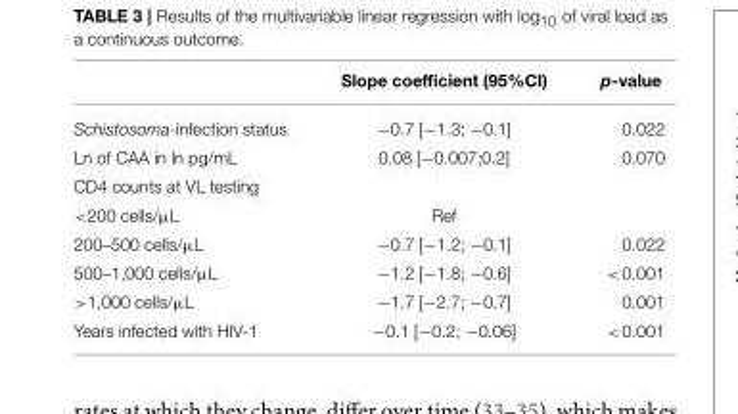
<table><thead><tr><td></td><td>Slope coefficient (95%CI)</td><td>p-value</td></tr></thead><tbody><tr><td>Schistosoma-infection status</td><td>−0.7 [−1.3; −0.1]</td><td>0.022</td></tr><tr><td>Ln of CAA in ln pg/mL</td><td>0.08 [−0.007;0.2]</td><td>0.070</td></tr><tr><td colspan="3">CD4 counts at VL testing</td></tr><tr><td>&lt;200 cells/µL</td><td>Ref</td><td></td></tr><tr><td>200–500 cells/µL</td><td>−0.7 [−1.2; −0.1]</td><td>0.022</td></tr><tr><td>500–1,000 cells/µL</td><td>−1.2 [−1.8; −0.6]</td><td>&lt;0.001</td></tr><tr><td>&gt;1,000 cells/µL</td><td>−1.7 [−2.7; −0.7]</td><td>0.001</td></tr><tr><td>Years infected with HIV-1</td><td>−0.1 [−0.2; −0.06]</td><td>&lt;0.001</td></tr></tbody></table>